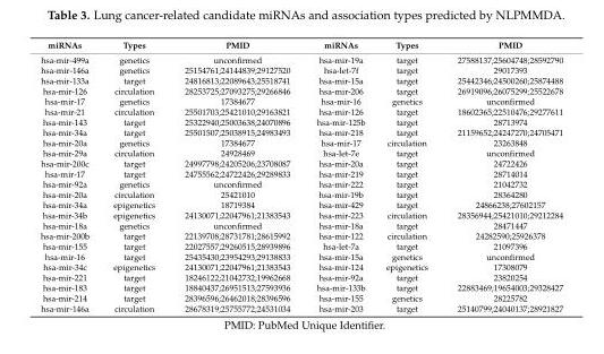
<table><thead><tr><td>miRNAs</td><td>Types</td><td>PMID</td><td>miRNAs</td><td>Types</td><td>PMID</td></tr></thead><tbody><tr><td>hsa-mir-499a</td><td>genetics</td><td>unconfirmed</td><td>hsa-mir-19a</td><td>target</td><td>27588137;25604748;28592790</td></tr><tr><td>hsa-mir-146a</td><td>genetics</td><td>25154761;24144839;29127520</td><td>hsa-let-7f</td><td>target</td><td>29017393</td></tr><tr><td>hsa-mir-133a</td><td>target</td><td>24816813;22089643;25518741</td><td>hsa-mir-15a</td><td>target</td><td>25442346;24500260;25874488</td></tr><tr><td>hsa-mir-126</td><td>circulation</td><td>28253725;27093275;29266846</td><td>hsa-mir-206</td><td>target</td><td>26919096;26075299;25522678</td></tr><tr><td>hsa-mir-17</td><td>genetics</td><td>17384677</td><td>hsa-mir-16</td><td>genetics</td><td>unconfirmed</td></tr><tr><td>hsa-mir-21</td><td>circulation</td><td>25501703;25421010;29163821</td><td>hsa-mir-126</td><td>target</td><td>18602365;22510476;29277611</td></tr><tr><td>hsa-mir-143</td><td>target</td><td>25322940;25003638;24070896</td><td>hsa-mir-125b</td><td>target</td><td>28713974</td></tr><tr><td>hsa-mir-34a</td><td>target</td><td>25501507;25038915;24983493</td><td>hsa-mir-218</td><td>target</td><td>21159652;24247270;24705471</td></tr><tr><td>hsa-mir-20a</td><td>genetics</td><td>17384677</td><td>hsa-mir-17</td><td>circulation</td><td>23263848</td></tr><tr><td>hsa-mir-29a</td><td>circulation</td><td>24928469</td><td>hsa-let-7e</td><td>target</td><td>unconfirmed</td></tr><tr><td>hsa-mir-200c</td><td>target</td><td>24997798;24205206;23708087</td><td>hsa-mir-20a</td><td>target</td><td>24722426</td></tr><tr><td>hsa-mir-17</td><td>target</td><td>24755562;24722426;29289833</td><td>hsa-mir-219</td><td>target</td><td>28714014</td></tr><tr><td>hsa-mir-92a</td><td>genetics</td><td>unconfirmed</td><td>hsa-mir-222</td><td>target</td><td>21042732</td></tr><tr><td>hsa-mir-20a</td><td>circulation</td><td>25421010</td><td>hsa-mir-19b</td><td>target</td><td>28364280</td></tr><tr><td>hsa-mir-34a</td><td>epigenetics</td><td>18719384</td><td>hsa-mir-429</td><td>target</td><td>24866238;27602157</td></tr><tr><td>hsa-mir-34b</td><td>epigenetics</td><td>24130071;22047961;21383543</td><td>hsa-mir-223</td><td>circulation</td><td>28356944;25421010;29212284</td></tr><tr><td>hsa-mir-18a</td><td>genetics</td><td>unconfirmed</td><td>hsa-mir-18a</td><td>target</td><td>28471447</td></tr><tr><td>hsa-mir-200b</td><td>target</td><td>22139708;28731781;28615992</td><td>hsa-mir-122</td><td>circulation</td><td>24282590;25926378</td></tr><tr><td>hsa-mir-155</td><td>target</td><td>22027557;29260515;28939896</td><td>hsa-let-7a</td><td>target</td><td>21097396</td></tr><tr><td>hsa-mir-16</td><td>target</td><td>25435430;23954293;29138833</td><td>hsa-mir-15a</td><td>genetics</td><td>unconfirmed</td></tr><tr><td>hsa-mir-34c</td><td>epigenetics</td><td>24130071;22047961;21383543</td><td>hsa-mir-124</td><td>epigenetics</td><td>17308079</td></tr><tr><td>hsa-mir-221</td><td>target</td><td>18246122;21042732;19962668</td><td>hsa-mir-92a</td><td>target</td><td>23820254</td></tr><tr><td>hsa-mir-183</td><td>target</td><td>18840437;26951513;27593936</td><td>hsa-mir-133b</td><td>target</td><td>22883469;19654003;29328427</td></tr><tr><td>hsa-mir-214</td><td>target</td><td>28396596;26462018;28396596</td><td>hsa-mir-155</td><td>genetics</td><td>28225782</td></tr><tr><td>hsa-mir-146a</td><td>circulation</td><td>28678319;25755772;24531034</td><td>hsa-mir-203</td><td>target</td><td>25140799;24040137;28921827</td></tr></tbody></table>